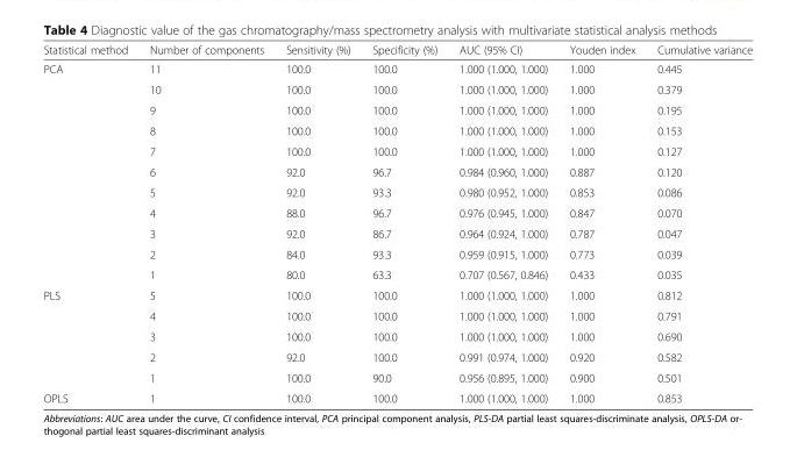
<table><thead><tr><td>Statistical method</td><td>Number of components</td><td>Sensitivity (%)</td><td>Specificity (%)</td><td>AUC (95% CI)</td><td>Youden index</td><td>Cumulative variance</td></tr></thead><tbody><tr><td rowspan="11">PCA</td><td>11</td><td>100.0</td><td>100.0</td><td>1.000 (1.000, 1.000)</td><td>1.000</td><td>0.445</td></tr><tr><td>10</td><td>100.0</td><td>100.0</td><td>1.000 (1.000, 1.000)</td><td>1.000</td><td>0.379</td></tr><tr><td>9</td><td>100.0</td><td>100.0</td><td>1.000 (1.000, 1.000)</td><td>1.000</td><td>0.195</td></tr><tr><td>8</td><td>100.0</td><td>100.0</td><td>1.000 (1.000, 1.000)</td><td>1.000</td><td>0.153</td></tr><tr><td>7</td><td>100.0</td><td>100.0</td><td>1.000 (1.000, 1.000)</td><td>1.000</td><td>0.127</td></tr><tr><td>6</td><td>92.0</td><td>96.7</td><td>0.984 (0.960, 1.000)</td><td>0.887</td><td>0.120</td></tr><tr><td>5</td><td>92.0</td><td>93.3</td><td>0.980 (0.952, 1.000)</td><td>0.853</td><td>0.086</td></tr><tr><td>4</td><td>88.0</td><td>96.7</td><td>0.976 (0.945, 1.000)</td><td>0.847</td><td>0.070</td></tr><tr><td>3</td><td>92.0</td><td>86.7</td><td>0.964 (0.924, 1.000)</td><td>0.787</td><td>0.047</td></tr><tr><td>2</td><td>84.0</td><td>93.3</td><td>0.959 (0.915, 1.000)</td><td>0.773</td><td>0.039</td></tr><tr><td>1</td><td>80.0</td><td>63.3</td><td>0.707 (0.567, 0.846)</td><td>0.433</td><td>0.035</td></tr><tr><td rowspan="5">PLS</td><td>5</td><td>100.0</td><td>100.0</td><td>1.000 (1.000, 1.000)</td><td>1.000</td><td>0.812</td></tr><tr><td>4</td><td>100.0</td><td>100.0</td><td>1.000 (1.000, 1.000)</td><td>1.000</td><td>0.791</td></tr><tr><td>3</td><td>100.0</td><td>100.0</td><td>1.000 (1.000, 1.000)</td><td>1.000</td><td>0.690</td></tr><tr><td>2</td><td>92.0</td><td>100.0</td><td>0.991 (0.974, 1.000)</td><td>0.920</td><td>0.582</td></tr><tr><td>1</td><td>100.0</td><td>90.0</td><td>0.956 (0.895, 1.000)</td><td>0.900</td><td>0.501</td></tr><tr><td>OPLS</td><td>1</td><td>100.0</td><td>100.0</td><td>1.000 (1.000, 1.000)</td><td>1.000</td><td>0.853</td></tr></tbody></table>